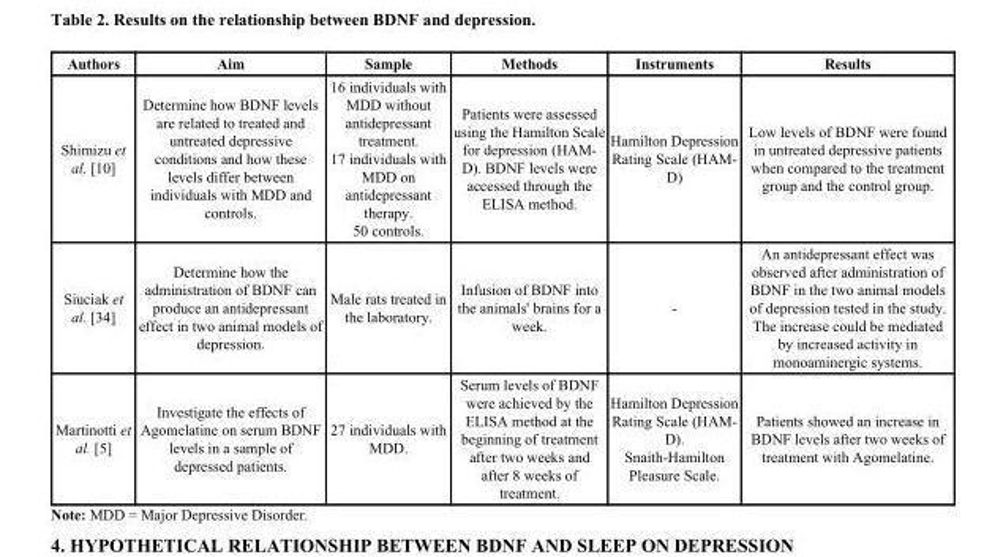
<table><thead><tr><td>Authors</td><td>Aim</td><td>Sample</td><td>Methods</td><td>Instruments</td><td>Results</td></tr></thead><tbody><tr><td>Shimizu et al. [10]</td><td>Determine how BDNF levels are related to treated and untreated depressive conditions and how these levels differ between individuals with MDD and controls.</td><td>16 individuals with MDD without antidepressant treatment. 17 individuals with MDD on antidepressant therapy. 50 controls.</td><td>Patients were assessed using the Hamilton Scale for depression (HAM- D). BDNF levels were accessed through the ELISA method.</td><td>Hamilton Depression Rating Scale (HAM- D)</td><td>Low levels of BDNF were found in untreated depressive patients when compared to the treatment group and the control group.</td></tr><tr><td>Siuciak et al. [34]</td><td>Determine how the administration of BDNF can produce an antidepressant effect in two animal models of depression.</td><td>Male rats treated in the laboratory.</td><td>Infusion of BDNF into the animals&#x27; brains for a week.</td><td>-</td><td>An antidepressant effect was observed after administration of BDNF in the two animal models of depression tested in the study. The increase could be mediated by increased activity in monoaminergic systems.</td></tr><tr><td>Martinotti et al. [5]</td><td>Investigate the effects of Agomelatine on serum BDNF levels in a sample of depressed patients.</td><td>27 individuals with MDD.</td><td>Serum levels of BDNF were achieved by the ELISA method at the beginning of treatment after two weeks and after 8 weeks of treatment.</td><td>Hamilton Depression Rating Scale (HAM- D). Snaith-Hamilton Pleasure Scale.</td><td>Patients showed an increase in BDNF levels after two weeks of treatment with Agomelatine.</td></tr></tbody></table>